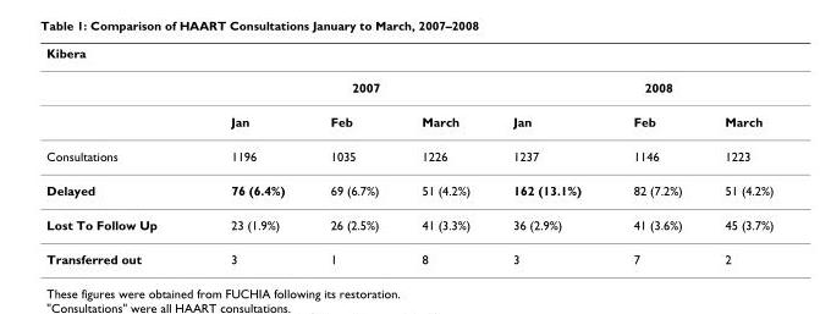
<table><thead><tr><td>Kibera</td><td></td><td></td><td></td><td></td><td></td><td></td></tr></thead><tbody><tr><td></td><td colspan="3">2007</td><td colspan="3">2008</td></tr><tr><td></td><td>Jan</td><td>Feb</td><td>March</td><td>Jan</td><td>Feb</td><td>March</td></tr><tr><td>Consultations</td><td>1196</td><td>1035</td><td>1226</td><td>1237</td><td>1146</td><td>1223</td></tr><tr><td>Delayed</td><td>76 (6.4%)</td><td>69 (6.7%)</td><td>51 (4.2%)</td><td>162 (13.1%)</td><td>82 (7.2%)</td><td>51 (4.2%)</td></tr><tr><td>Lost To Follow Up</td><td>23 (1.9%)</td><td>26 (2.5%)</td><td>41 (3.3%)</td><td>36 (2.9%)</td><td>41 (3.6%)</td><td>45 (3.7%)</td></tr><tr><td>Transferred out</td><td>3</td><td>1</td><td>8</td><td>3</td><td>7</td><td>2</td></tr></tbody></table>